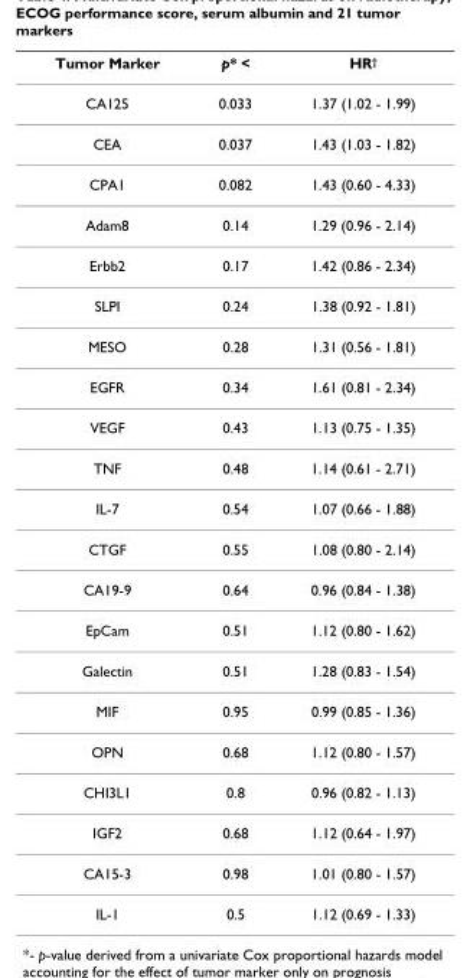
<table><thead><tr><td>Tumor Marker</td><td>p* &lt;</td><td>HR<sup>†</sup></td></tr></thead><tbody><tr><td>CA125</td><td>0.033</td><td>1.37 (1.02 - 1.99)</td></tr><tr><td>CEA</td><td>0.037</td><td>1.43 (1.03 - 1.82)</td></tr><tr><td>CPA1</td><td>0.082</td><td>1.43 (0.60 - 4.33)</td></tr><tr><td>Adam8</td><td>0.14</td><td>1.29 (0.96 - 2.14)</td></tr><tr><td>Erbb2</td><td>0.17</td><td>1.42 (0.86 - 2.34)</td></tr><tr><td>SLPI</td><td>0.24</td><td>1.38 (0.92 - 1.81)</td></tr><tr><td>MESO</td><td>0.28</td><td>1.31 (0.56 - 1.81)</td></tr><tr><td>EGFR</td><td>0.34</td><td>1.61 (0.81 - 2.34)</td></tr><tr><td>VEGF</td><td>0.43</td><td>1.13 (0.75 - 1.35)</td></tr><tr><td>TNF</td><td>0.48</td><td>1.14 (0.61 - 2.71)</td></tr><tr><td>IL-7</td><td>0.54</td><td>1.07 (0.66 - 1.88)</td></tr><tr><td>CTGF</td><td>0.55</td><td>1.08 (0.80 - 2.14)</td></tr><tr><td>CA19-9</td><td>0.64</td><td>0.96 (0.84 - 1.38)</td></tr><tr><td>EpCam</td><td>0.51</td><td>1.12 (0.80 - 1.62)</td></tr><tr><td>Galectin</td><td>0.51</td><td>1.28 (0.83 - 1.54)</td></tr><tr><td>MIF</td><td>0.95</td><td>0.99 (0.85 - 1.36)</td></tr><tr><td>OPN</td><td>0.68</td><td>1.12 (0.80 - 1.57)</td></tr><tr><td>CHI3L1</td><td>0.8</td><td>0.96 (0.82 - 1.13)</td></tr><tr><td>IGF2</td><td>0.68</td><td>1.12 (0.64 - 1.97)</td></tr><tr><td>CA15-3</td><td>0.98</td><td>1.01 (0.80 - 1.57)</td></tr><tr><td>IL-1</td><td>0.5</td><td>1.12 (0.69 - 1.33)</td></tr></tbody></table>